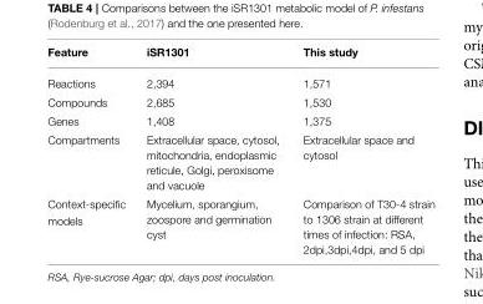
<table><thead><tr><td>Feature</td><td>iSR1301</td><td>This study</td></tr></thead><tbody><tr><td>Reactions</td><td>2,394</td><td>1,571</td></tr><tr><td>Compounds</td><td>2,685</td><td>1,530</td></tr><tr><td>Genes</td><td>1,408</td><td>1,375</td></tr><tr><td>Compartments</td><td>Extracellular space, cytosol, mitochondria, endoplasmic reticule, Golgi, peroxisome and vacuole</td><td>Extracellular space and cytosol</td></tr><tr><td>Context-specific models</td><td>Mycelium, sporangium, zoospore and germination cyst</td><td>Comparison of T30-4 strain to 1306 strain at different times of infection: RSA, 2dpi,3dpi,4dpi, and 5 dpi</td></tr></tbody></table>